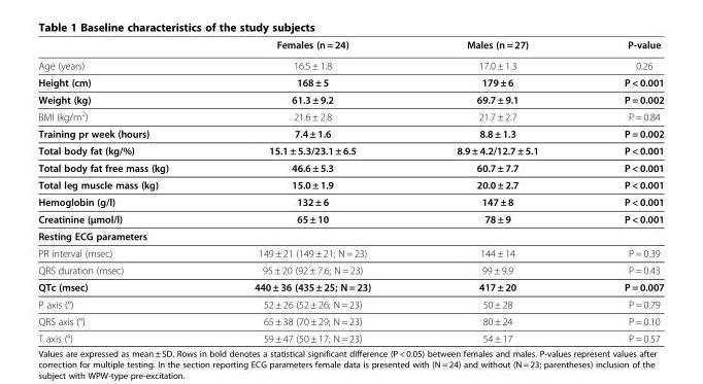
<table><thead><tr><td></td><td>Females (n = 24)</td><td>Males (n = 27)</td><td>P-value</td></tr></thead><tbody><tr><td>Age (years)</td><td>16.5 ± 1.8</td><td>17.0 ± 1.3</td><td>0.26</td></tr><tr><td>Height (cm)</td><td>168 ± 5</td><td>179 ± 6</td><td>P &lt; 0.001</td></tr><tr><td>Weight (kg)</td><td>61.3 ± 9.2</td><td>69.7 ± 9.1</td><td>P = 0.002</td></tr><tr><td>BMI (kg/m<sup>2</sup>)</td><td>21.6 ± 2.8</td><td>21.7 ± 2.7</td><td>P = 0.84</td></tr><tr><td>Training pr week (hours)</td><td>7.4 ± 1.6</td><td>8.8 ± 1.3</td><td>P = 0.002</td></tr><tr><td>Total body fat (kg/%)</td><td>15.1 ± 5.3/23.1 ± 6.5</td><td>8.9 ± 4.2/12.7 ± 5.1</td><td>P &lt; 0.001</td></tr><tr><td>Total body fat free mass (kg)</td><td>46.6 ± 5.3</td><td>60.7 ± 7.7</td><td>P &lt; 0.001</td></tr><tr><td>Total leg muscle mass (kg)</td><td>15.0 ± 1.9</td><td>20.0 ± 2.7</td><td>P &lt; 0.001</td></tr><tr><td>Hemoglobin (g/l)</td><td>132 ± 6</td><td>147 ± 8</td><td>P &lt; 0.001</td></tr><tr><td>Creatinine (μmol/l)</td><td>65 ± 10</td><td>78 ± 9</td><td>P &lt; 0.001</td></tr><tr><td colspan="4">Resting ECG parameters</td></tr><tr><td>PR interval (msec)</td><td>149 ± 21 (149 ± 21; N = 23)</td><td>144 ± 14</td><td>P = 0.39</td></tr><tr><td>QRS duration (msec)</td><td>95 ± 20 (92 ± 7.6; N = 23)</td><td>99 ± 9.9</td><td>P = 0.43</td></tr><tr><td>QTc (msec)</td><td>440 ± 36 (435 ± 25; N = 23)</td><td>417 ± 20</td><td>P = 0.007</td></tr><tr><td>P axis (°)</td><td>52 ± 26 (52 ± 26; N = 23)</td><td>50 ± 28</td><td>P = 0.79</td></tr><tr><td>QRS axis (°)</td><td>65 ± 38 (70 ± 29; N = 23)</td><td>80 ± 24</td><td>P = 0.10</td></tr><tr><td>T axis (°)</td><td>59 ± 47 (50 ± 17; N = 23)</td><td>54 ± 17</td><td>P = 0.57</td></tr></tbody></table>